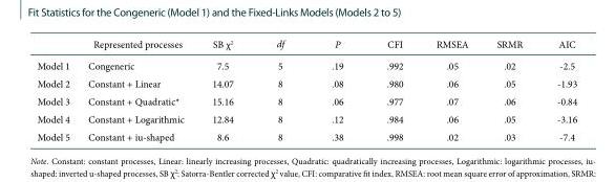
<table><thead><tr><td></td><td>Represented processes</td><td>SB χ2</td><td>df</td><td>P</td><td>CFI</td><td>RMSEA</td><td>SRMR</td><td>AIC</td></tr></thead><tbody><tr><td>Model 1</td><td>Congeneric</td><td>7.5</td><td>5</td><td>.19</td><td>.992</td><td>.05</td><td>.02</td><td>-2.5</td></tr><tr><td>Model 2</td><td>Constant + Linear</td><td>14.07</td><td>8</td><td>.08</td><td>.980</td><td>.06</td><td>.05</td><td>-1.93</td></tr><tr><td>Model 3</td><td>Constant + Quadratic*</td><td>15.16</td><td>8</td><td>.06</td><td>.977</td><td>.07</td><td>.06</td><td>-0.84</td></tr><tr><td>Model 4</td><td>Constant + Logarithmic</td><td>12.84</td><td>8</td><td>.12</td><td>.984</td><td>.06</td><td>.05</td><td>-3.16</td></tr><tr><td>Model 5</td><td>Constant + iu-shaped</td><td>8.6</td><td>8</td><td>.38</td><td>.998</td><td>.02</td><td>.03</td><td>-7.4</td></tr></tbody></table>